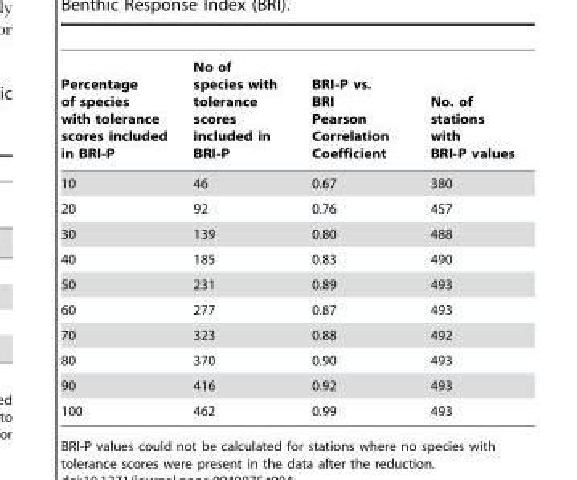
<table><thead><tr><td>Percentage of species with tolerance scores included in BRI-P</td><td>No of species with tolerance scores included in BRI-P</td><td>BRI-P vs. BRI Pearson Correlation Coefficient</td><td>No. of stations with BRI-P values</td></tr></thead><tbody><tr><td>10</td><td>46</td><td>0.67</td><td>380</td></tr><tr><td>20</td><td>92</td><td>0.76</td><td>457</td></tr><tr><td>30</td><td>139</td><td>0.80</td><td>488</td></tr><tr><td>40</td><td>185</td><td>0.83</td><td>490</td></tr><tr><td>50</td><td>231</td><td>0.89</td><td>493</td></tr><tr><td>60</td><td>277</td><td>0.87</td><td>493</td></tr><tr><td>70</td><td>323</td><td>0.88</td><td>492</td></tr><tr><td>80</td><td>370</td><td>0.90</td><td>493</td></tr><tr><td>90</td><td>416</td><td>0.92</td><td>493</td></tr><tr><td>100</td><td>462</td><td>0.99</td><td>493</td></tr></tbody></table>